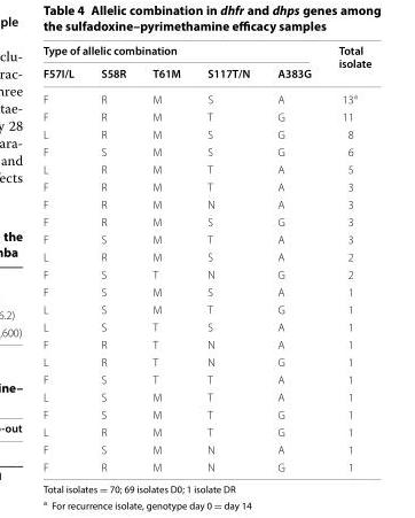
<table><thead><tr><td colspan="5">Type of allelic combination</td><td rowspan="2">Total isolate</td></tr><tr><td>F57I/L</td><td>S58R</td><td>T61M</td><td>S117T/N</td><td>A383G</td></tr></thead><tbody><tr><td>F</td><td>R</td><td>M</td><td>S</td><td>A</td><td>13<sup>a</sup></td></tr><tr><td>F</td><td>R</td><td>M</td><td>T</td><td>G</td><td>11</td></tr><tr><td>L</td><td>R</td><td>M</td><td>S</td><td>G</td><td>8</td></tr><tr><td>F</td><td>S</td><td>M</td><td>S</td><td>G</td><td>6</td></tr><tr><td>L</td><td>R</td><td>M</td><td>T</td><td>A</td><td>5</td></tr><tr><td>F</td><td>R</td><td>M</td><td>T</td><td>A</td><td>3</td></tr><tr><td>F</td><td>R</td><td>M</td><td>N</td><td>A</td><td>3</td></tr><tr><td>F</td><td>R</td><td>M</td><td>S</td><td>G</td><td>3</td></tr><tr><td>F</td><td>S</td><td>M</td><td>T</td><td>A</td><td>3</td></tr><tr><td>L</td><td>R</td><td>M</td><td>S</td><td>A</td><td>2</td></tr><tr><td>F</td><td>S</td><td>T</td><td>N</td><td>G</td><td>2</td></tr><tr><td>F</td><td>S</td><td>M</td><td>S</td><td>A</td><td>1</td></tr><tr><td>L</td><td>S</td><td>M</td><td>T</td><td>G</td><td>1</td></tr><tr><td>L</td><td>S</td><td>T</td><td>S</td><td>A</td><td>1</td></tr><tr><td>F</td><td>R</td><td>T</td><td>N</td><td>A</td><td>1</td></tr><tr><td>L</td><td>R</td><td>T</td><td>N</td><td>G</td><td>1</td></tr><tr><td>F</td><td>S</td><td>T</td><td>T</td><td>A</td><td>1</td></tr><tr><td>L</td><td>S</td><td>M</td><td>T</td><td>A</td><td>1</td></tr><tr><td>F</td><td>S</td><td>M</td><td>T</td><td>G</td><td>1</td></tr><tr><td>L</td><td>R</td><td>M</td><td>T</td><td>G</td><td>1</td></tr><tr><td>F</td><td>S</td><td>M</td><td>N</td><td>A</td><td>1</td></tr><tr><td>F</td><td>R</td><td>M</td><td>N</td><td>G</td><td>1</td></tr></tbody></table>